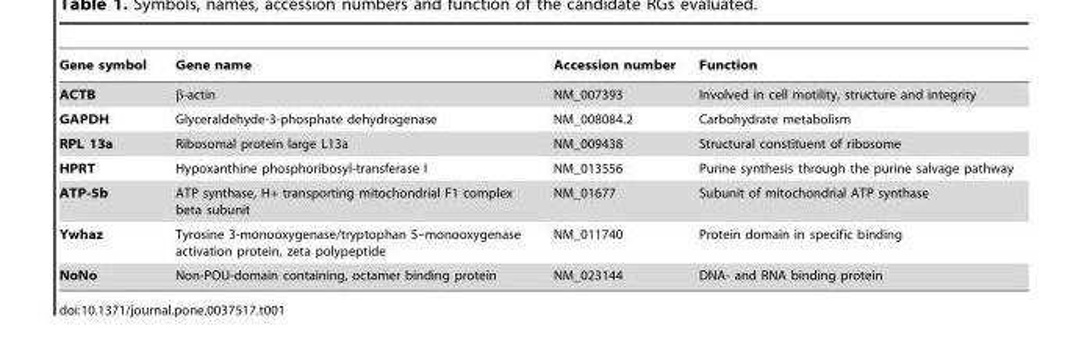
<table><thead><tr><td>Gene symbol</td><td>Gene name</td><td>Accession number</td><td>Function</td></tr></thead><tbody><tr><td>ACTB</td><td>β-actin</td><td>NM_007393</td><td>Involved in cell motility, structure and integrity</td></tr><tr><td>GAPDH</td><td>Glyceraldehyde-3-phosphate dehydrogenase</td><td>NM_008084.2</td><td>Carbohydrate metabolism</td></tr><tr><td>RPL 13a</td><td>Ribosomal protein large L13a</td><td>NM_009438</td><td>Structural constituent of ribosome</td></tr><tr><td>HPRT</td><td>Hypoxanthine phosphoribosyl-transferase I</td><td>NM_013556</td><td>Purine synthesis through the purine salvage pathway</td></tr><tr><td>ATP-5b</td><td>ATP synthase, H+ transporting mitochondrial F1 complex beta subunit</td><td>NM_01677</td><td>Subunit of mitochondrial ATP synthase</td></tr><tr><td>Ywhaz</td><td>Tyrosine 3-monooxygenase/tryptophan 5–monooxygenase activation protein, zeta polypeptide</td><td>NM_011740</td><td>Protein domain in specific binding</td></tr><tr><td>NoNo</td><td>Non-POU-domain containing, octamer binding protein</td><td>NM_023144</td><td>DNA- and RNA binding protein</td></tr></tbody></table>